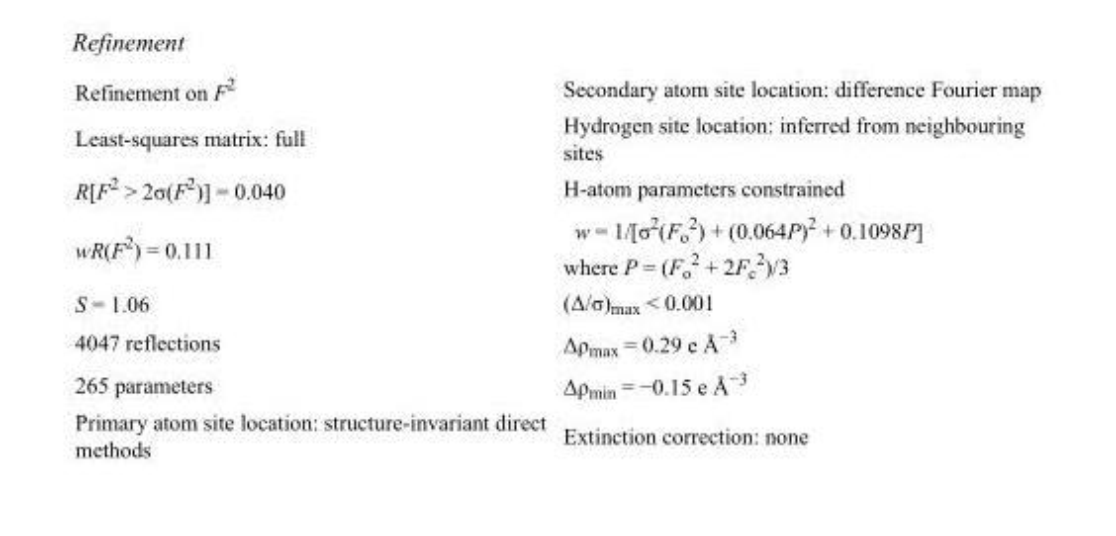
<table><tbody><tr><td>Refinement on F<sup>2</sup></td><td>Secondary atom site location: difference Fourier map</td></tr><tr><td>Least-squares matrix: full</td><td>Hydrogen site location: inferred from neighbouring sites</td></tr><tr><td>R[F<sup>2</sup> &gt; 2σ(F<sup>2</sup>)] = 0.040</td><td>H-atom parameters constrained</td></tr><tr><td>wR(F<sup>2</sup>) = 0.111</td><td>w = 1/[σ<sup>2</sup>(F<sub>o</sub> <sup>2</sup>) + (0.064P)<sup>2</sup> + 0.1098P] where P = (F<sub>o</sub> <sup>2</sup> + 2F<sub>c</sub> <sup>2</sup>)/3</td></tr><tr><td>S = 1.06</td><td>(Δ/σ)<sub>max</sub> &lt; 0.001</td></tr><tr><td>4047 reflections</td><td>Δρ<sub>max</sub> = 0.29 e Å<sup>−3</sup></td></tr><tr><td>265 parameters</td><td>Δρ<sub>min</sub> = −0.15 e Å<sup>−3</sup></td></tr><tr><td>Primary atom site location: structure-invariant direct methods</td><td>Extinction correction: none</td></tr></tbody></table>